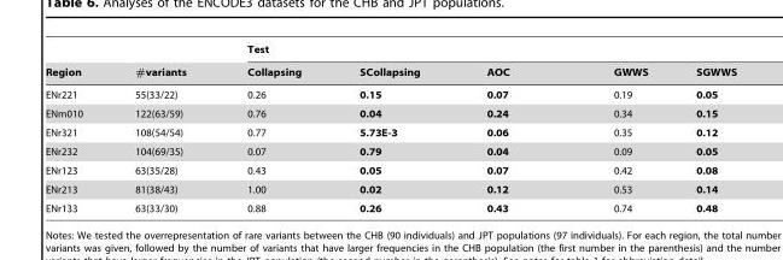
<table><thead><tr><td rowspan="2">Region</td><td rowspan="2">#variants</td><td colspan="5">Test</td></tr><tr><td>Collapsing</td><td>SCollapsing</td><td>AOC</td><td>GWWS</td><td>SGWWS</td></tr></thead><tbody><tr><td>ENr221</td><td>55(33/22)</td><td>0.26</td><td>0.15</td><td>0.07</td><td>0.19</td><td>0.05</td></tr><tr><td>ENm010</td><td>122(63/59)</td><td>0.76</td><td>0.04</td><td>0.24</td><td>0.34</td><td>0.15</td></tr><tr><td>ENr321</td><td>108(54/54)</td><td>0.77</td><td>5.73E-3</td><td>0.06</td><td>0.35</td><td>0.12</td></tr><tr><td>ENr232</td><td>104(69/35)</td><td>0.07</td><td>0.79</td><td>0.04</td><td>0.09</td><td>0.05</td></tr><tr><td>ENr123</td><td>63(35/28)</td><td>0.43</td><td>0.05</td><td>0.07</td><td>0.42</td><td>0.08</td></tr><tr><td>ENr213</td><td>81(38/43)</td><td>1.00</td><td>0.02</td><td>0.12</td><td>0.53</td><td>0.14</td></tr><tr><td>ENr133</td><td>63(33/30)</td><td>0.88</td><td>0.26</td><td>0.43</td><td>0.74</td><td>0.48</td></tr></tbody></table>